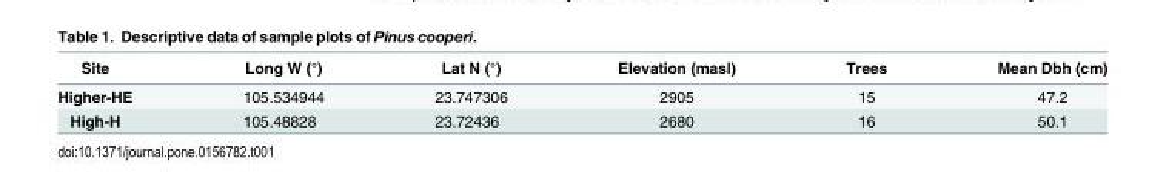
<table><thead><tr><td>Site</td><td>Long W (°)</td><td>Lat N (°)</td><td>Elevation (masl)</td><td>Trees</td><td>Mean Dbh (cm)</td></tr></thead><tbody><tr><td>Higher-HE</td><td>105.534944</td><td>23.747306</td><td>2905</td><td>15</td><td>47.2</td></tr><tr><td>High-H</td><td>105.48828</td><td>23.72436</td><td>2680</td><td>16</td><td>50.1</td></tr></tbody></table>